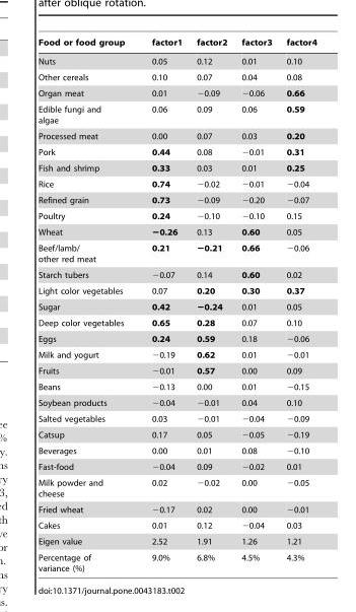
<table><thead><tr><td>Food or food group</td><td>factor1</td><td>factor2</td><td>factor3</td><td>factor4</td></tr></thead><tbody><tr><td>Nuts</td><td>0.05</td><td>0.12</td><td>0.01</td><td>0.10</td></tr><tr><td>Other cereals</td><td>0.10</td><td>0.07</td><td>0.04</td><td>0.08</td></tr><tr><td>Organ meat</td><td>0.01</td><td>−0.09</td><td>−0.06</td><td>0.66</td></tr><tr><td>Edible fungi and algae</td><td>0.06</td><td>0.09</td><td>0.06</td><td>0.59</td></tr><tr><td>Processed meat</td><td>0.00</td><td>0.07</td><td>0.03</td><td>0.20</td></tr><tr><td>Pork</td><td>0.44</td><td>0.08</td><td>−0.01</td><td>0.31</td></tr><tr><td>Fish and shrimp</td><td>0.33</td><td>0.03</td><td>0.01</td><td>0.25</td></tr><tr><td>Rice</td><td>0.74</td><td>−0.02</td><td>−0.01</td><td>−0.04</td></tr><tr><td>Refined grain</td><td>0.73</td><td>−0.09</td><td>−0.20</td><td>−0.07</td></tr><tr><td>Poultry</td><td>0.24</td><td>−0.10</td><td>−0.10</td><td>0.15</td></tr><tr><td>Wheat</td><td>−0.26</td><td>0.13</td><td>0.60</td><td>0.05</td></tr><tr><td>Beef/lamb/ other red meat</td><td>0.21</td><td>−0.21</td><td>0.66</td><td>−0.06</td></tr><tr><td>Starch tubers</td><td>−0.07</td><td>0.14</td><td>0.60</td><td>0.02</td></tr><tr><td>Light color vegetables</td><td>0.07</td><td>0.20</td><td>0.30</td><td>0.37</td></tr><tr><td>Sugar</td><td>0.42</td><td>−0.24</td><td>0.01</td><td>0.05</td></tr><tr><td>Deep color vegetables</td><td>0.65</td><td>0.28</td><td>0.07</td><td>0.10</td></tr><tr><td>Eggs</td><td>0.24</td><td>0.59</td><td>0.18</td><td>−0.06</td></tr><tr><td>Milk and yogurt</td><td>−0.19</td><td>0.62</td><td>0.01</td><td>−0.01</td></tr><tr><td>Fruits</td><td>−0.01</td><td>0.57</td><td>0.00</td><td>0.09</td></tr><tr><td>Beans</td><td>−0.13</td><td>0.00</td><td>0.01</td><td>−0.15</td></tr><tr><td>Soybean products</td><td>−0.04</td><td>−0.01</td><td>0.04</td><td>0.10</td></tr><tr><td>Salted vegetables</td><td>0.03</td><td>−0.01</td><td>−0.04</td><td>−0.09</td></tr><tr><td>Catsup</td><td>0.17</td><td>0.05</td><td>−0.05</td><td>−0.19</td></tr><tr><td>Beverages</td><td>0.00</td><td>0.01</td><td>0.08</td><td>−0.10</td></tr><tr><td>Fast-food</td><td>−0.04</td><td>0.09</td><td>−0.02</td><td>0.01</td></tr><tr><td>Milk powder and cheese</td><td>0.02</td><td>−0.02</td><td>0.00</td><td>−0.05</td></tr><tr><td>Fried wheat</td><td>−0.17</td><td>0.02</td><td>0.00</td><td>−0.01</td></tr><tr><td>Cakes</td><td>0.01</td><td>0.12</td><td>−0.04</td><td>0.03</td></tr><tr><td>Eigen value</td><td>2.52</td><td>1.91</td><td>1.26</td><td>1.21</td></tr><tr><td>Percentage of variance (%)</td><td>9.0%</td><td>6.8%</td><td>4.5%</td><td>4.3%</td></tr></tbody></table>